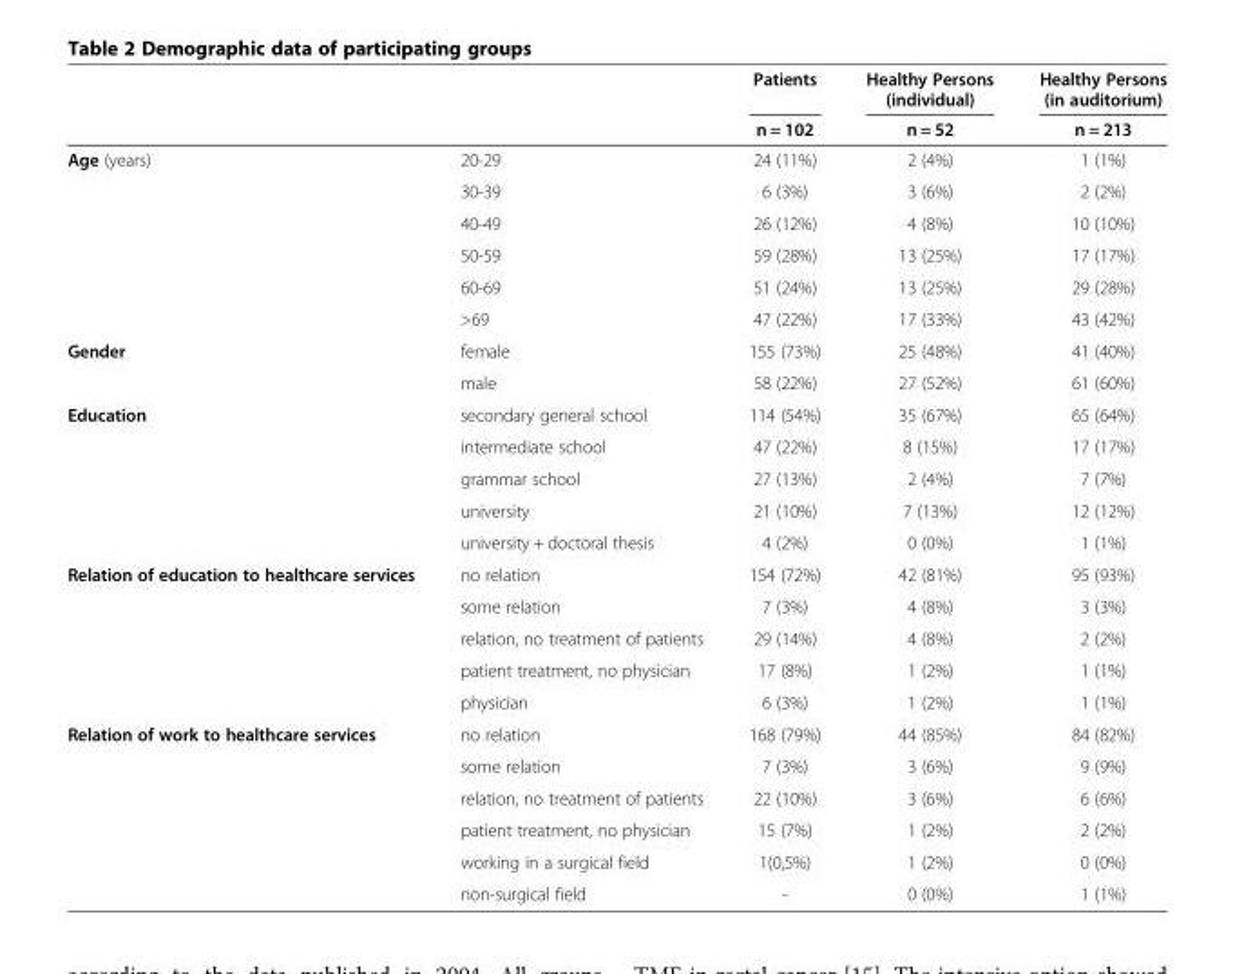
<table><thead><tr><td rowspan="2"></td><td rowspan="2"></td><td rowspan="2">Patients n = 102</td><td rowspan="2">Healthy Persons (individual) n = 52</td><td rowspan="2">Healthy Persons (in auditorium) n = 213</td></tr><tr></tr></thead><tbody><tr><td rowspan="6">Age (years)</td><td>20-29</td><td>24 (11%)</td><td>2 (4%)</td><td>1 (1%)</td></tr><tr><td>30-39</td><td>6 (3%)</td><td>3 (6%)</td><td>2 (2%)</td></tr><tr><td>40-49</td><td>26 (12%)</td><td>4 (8%)</td><td>10 (10%)</td></tr><tr><td>50-59</td><td>59 (28%)</td><td>13 (25%)</td><td>17 (17%)</td></tr><tr><td>60-69</td><td>51 (24%)</td><td>13 (25%)</td><td>29 (28%)</td></tr><tr><td>&gt;69</td><td>47 (22%)</td><td>17 (33%)</td><td>43 (42%)</td></tr><tr><td rowspan="2">Gender</td><td>female</td><td>155 (73%)</td><td>25 (48%)</td><td>41 (40%)</td></tr><tr><td>male</td><td>58 (22%)</td><td>27 (52%)</td><td>61 (60%)</td></tr><tr><td rowspan="5">Education</td><td>secondary general school</td><td>114 (54%)</td><td>35 (67%)</td><td>65 (64%)</td></tr><tr><td>intermediate school</td><td>47 (22%)</td><td>8 (15%)</td><td>17 (17%)</td></tr><tr><td>grammar school</td><td>27 (13%)</td><td>2 (4%)</td><td>7 (7%)</td></tr><tr><td>university</td><td>21 (10%)</td><td>7 (13%)</td><td>12 (12%)</td></tr><tr><td>university + doctoral thesis</td><td>4 (2%)</td><td>0 (0%)</td><td>1 (1%)</td></tr><tr><td rowspan="5">Relation of education to healthcare services</td><td>no relation</td><td>154 (72%)</td><td>42 (81%)</td><td>95 (93%)</td></tr><tr><td>some relation</td><td>7 (3%)</td><td>4 (8%)</td><td>3 (3%)</td></tr><tr><td>relation, no treatment of patients</td><td>29 (14%)</td><td>4 (8%)</td><td>2 (2%)</td></tr><tr><td>patient treatment, no physician</td><td>17 (8%)</td><td>1 (2%)</td><td>1 (1%)</td></tr><tr><td>physician</td><td>6 (3%)</td><td>1 (2%)</td><td>1 (1%)</td></tr><tr><td rowspan="6">Relation of work to healthcare services</td><td>no relation</td><td>168 (79%)</td><td>44 (85%)</td><td>84 (82%)</td></tr><tr><td>some relation</td><td>7 (3%)</td><td>3 (6%)</td><td>9 (9%)</td></tr><tr><td>relation, no treatment of patients</td><td>22 (10%)</td><td>3 (6%)</td><td>6 (6%)</td></tr><tr><td>patient treatment, no physician</td><td>15 (7%)</td><td>1 (2%)</td><td>2 (2%)</td></tr><tr><td>working in a surgical field</td><td>1(0,5%)</td><td>1 (2%)</td><td>0 (0%)</td></tr><tr><td>non-surgical field</td><td>-</td><td>0 (0%)</td><td>1 (1%)</td></tr></tbody></table>